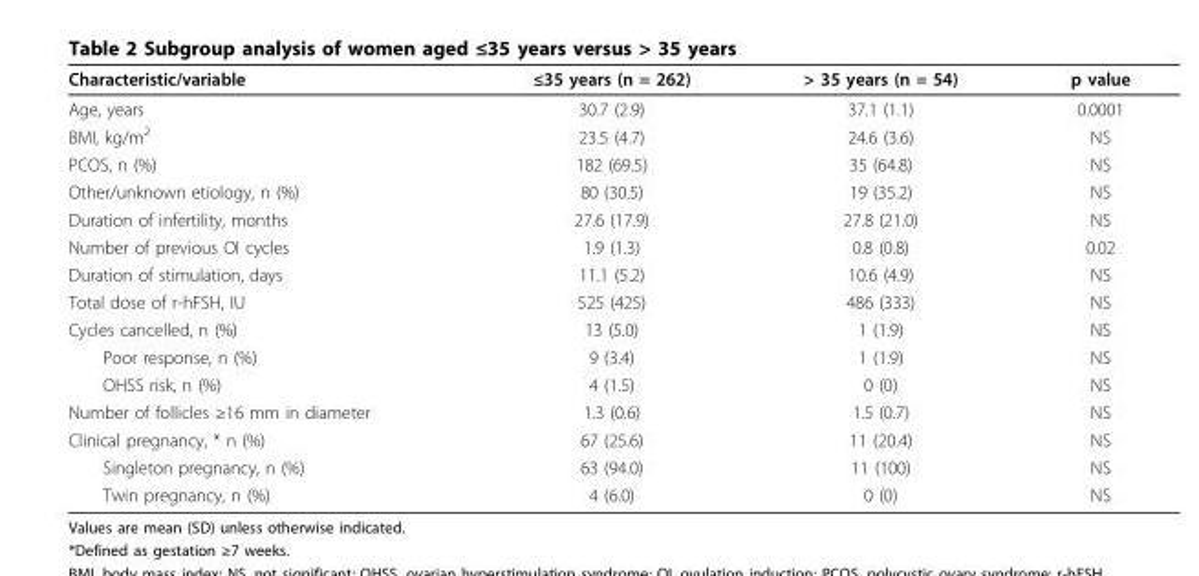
<table><thead><tr><td>Characteristic/variable</td><td>≤35 years (n = 262)</td><td>&gt; 35 years (n = 54)</td><td>p value</td></tr></thead><tbody><tr><td>Age, years</td><td>30.7 (2.9)</td><td>37.1 (1.1)</td><td>0.0001</td></tr><tr><td>BMI, kg/m<sup>2</sup></td><td>23.5 (4.7)</td><td>24.6 (3.6)</td><td>NS</td></tr><tr><td>PCOS, n (%)</td><td>182 (69.5)</td><td>35 (64.8)</td><td>NS</td></tr><tr><td>Other/unknown etiology, n (%)</td><td>80 (30.5)</td><td>19 (35.2)</td><td>NS</td></tr><tr><td>Duration of infertility, months</td><td>27.6 (17.9)</td><td>27.8 (21.0)</td><td>NS</td></tr><tr><td>Number of previous OI cycles</td><td>1.9 (1.3)</td><td>0.8 (0.8)</td><td>0.02</td></tr><tr><td>Duration of stimulation, days</td><td>11.1 (5.2)</td><td>10.6 (4.9)</td><td>NS</td></tr><tr><td>Total dose of r-hFSH, IU</td><td>525 (425)</td><td>486 (333)</td><td>NS</td></tr><tr><td>Cycles cancelled, n (%)</td><td>13 (5.0)</td><td>1 (1.9)</td><td>NS</td></tr><tr><td>Poor response, n (%)</td><td>9 (3.4)</td><td>1 (1.9)</td><td>NS</td></tr><tr><td>OHSS risk, n (%)</td><td>4 (1.5)</td><td>0 (0)</td><td>NS</td></tr><tr><td>Number of follicles ≥16 mm in diameter</td><td>1.3 (0.6)</td><td>1.5 (0.7)</td><td>NS</td></tr><tr><td>Clinical pregnancy, * n (%)</td><td>67 (25.6)</td><td>11 (20.4)</td><td>NS</td></tr><tr><td>Singleton pregnancy, n (%)</td><td>63 (94.0)</td><td>11 (100)</td><td>NS</td></tr><tr><td>Twin pregnancy, n (%)</td><td>4 (6.0)</td><td>0 (0)</td><td>NS</td></tr></tbody></table>